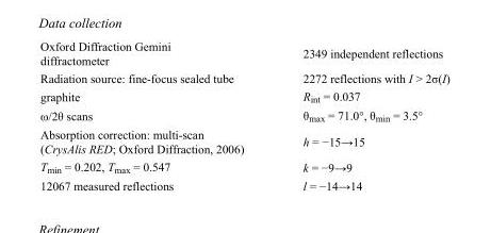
<table><tbody><tr><td>Oxford Diffraction Gemini diffractometer</td><td>2349 independent reflections</td></tr><tr><td>Radiation source: fine-focus sealed tube</td><td>2272 reflections with I &gt; 2σ(I)</td></tr><tr><td>graphite</td><td>R<sub>int</sub> = 0.037</td></tr><tr><td>ω/2θ scans</td><td>θ<sub>max</sub> = 71.0°, θ<sub>min</sub> = 3.5°</td></tr><tr><td>Absorption correction: multi-scan (CrysAlis RED; Oxford Diffraction, 2006)</td><td>h = −15→15</td></tr><tr><td>T<sub>min</sub> = 0.202, T<sub>max</sub> = 0.547</td><td>k = −9→9</td></tr><tr><td>12067 measured reflections</td><td>l = −14→14</td></tr></tbody></table>